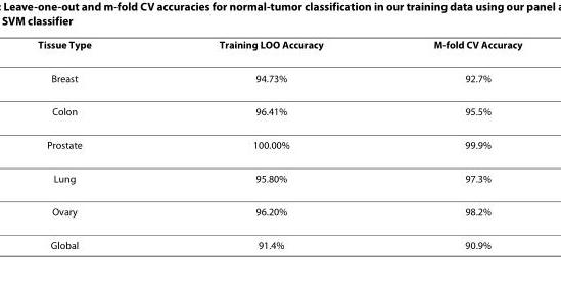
<table><thead><tr><td>Tissue Type</td><td>Training LOO Accuracy</td><td>M-fold CV Accuracy</td></tr></thead><tbody><tr><td>Breast</td><td>94.73%</td><td>92.7%</td></tr><tr><td>Colon</td><td>96.41%</td><td>95.5%</td></tr><tr><td>Prostate</td><td>100.00%</td><td>99.9%</td></tr><tr><td>Lung</td><td>95.80%</td><td>97.3%</td></tr><tr><td>Ovary</td><td>96.20%</td><td>98.2%</td></tr><tr><td>Global</td><td>91.4%</td><td>90.9%</td></tr></tbody></table>